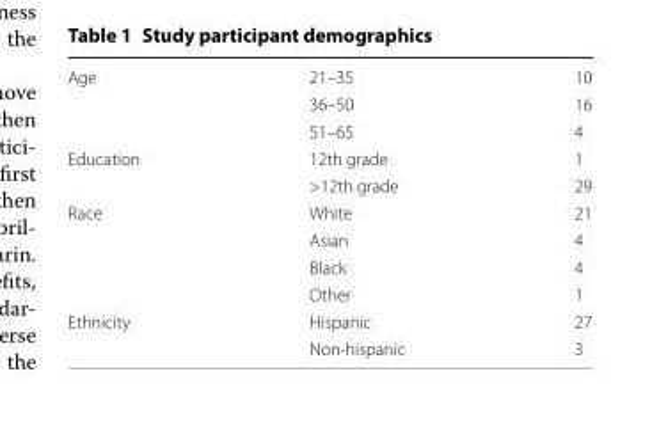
<table><tbody><tr><td rowspan="3">Age</td><td>21–35</td><td>10</td></tr><tr><td>36–50</td><td>16</td></tr><tr><td>51–65</td><td>4</td></tr><tr><td rowspan="2">Education</td><td>12th grade</td><td>1</td></tr><tr><td>&gt;12th grade</td><td>29</td></tr><tr><td rowspan="4">Race</td><td>White</td><td>21</td></tr><tr><td>Asian</td><td>4</td></tr><tr><td>Black</td><td>4</td></tr><tr><td>Other</td><td>1</td></tr><tr><td rowspan="2">Ethnicity</td><td>Hispanic</td><td>27</td></tr><tr><td>Non‑hispanic</td><td>3</td></tr></tbody></table>